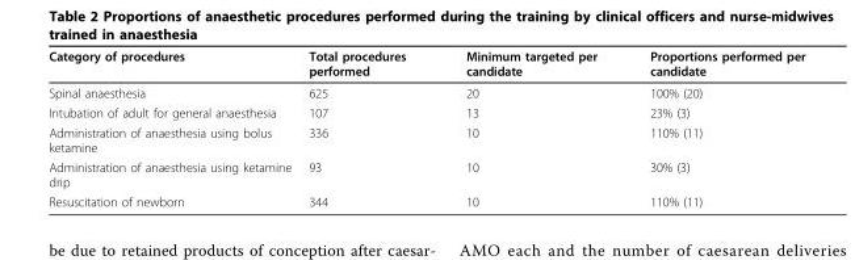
<table><thead><tr><td>Category of procedures</td><td>Total procedures performed</td><td>Minimum targeted per candidate</td><td>Proportions performed per candidate</td></tr></thead><tbody><tr><td>Spinal anaesthesia</td><td>625</td><td>20</td><td>100% (20)</td></tr><tr><td>Intubation of adult for general anaesthesia</td><td>107</td><td>13</td><td>23% (3)</td></tr><tr><td>Administration of anaesthesia using bolus ketamine</td><td>336</td><td>10</td><td>110% (11)</td></tr><tr><td>Administration of anaesthesia using ketamine drip</td><td>93</td><td>10</td><td>30% (3)</td></tr><tr><td>Resuscitation of newborn</td><td>344</td><td>10</td><td>110% (11)</td></tr></tbody></table>